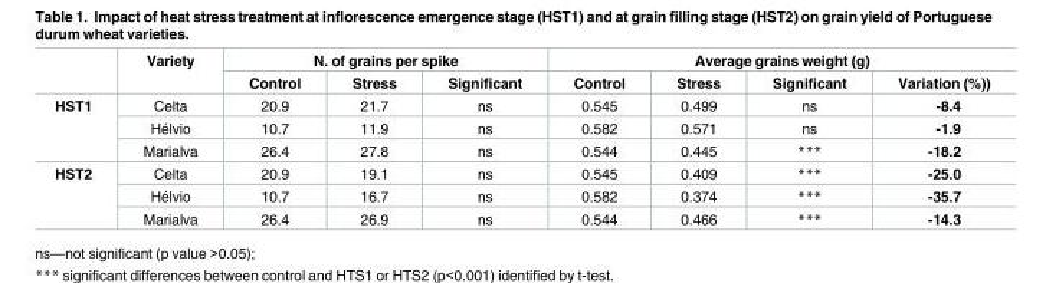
<table><thead><tr><td rowspan="2"></td><td rowspan="2">Variety</td><td colspan="3">N. of grains per spike</td><td colspan="4">Average grains weight (g)</td></tr><tr><td>Control</td><td>Stress</td><td>Significant</td><td>Control</td><td>Stress</td><td>Significant</td><td>Variation (%))</td></tr></thead><tbody><tr><td rowspan="3">HST1</td><td>Celta</td><td>20.9</td><td>21.7</td><td>ns</td><td>0.545</td><td>0.499</td><td>ns</td><td>-8.4</td></tr><tr><td>He´lvio</td><td>10.7</td><td>11.9</td><td>ns</td><td>0.582</td><td>0.571</td><td>ns</td><td>-1.9</td></tr><tr><td>Marialva</td><td>26.4</td><td>27.8</td><td>ns</td><td>0.544</td><td>0.445</td><td>***</td><td>-18.2</td></tr><tr><td rowspan="3">HST2</td><td>Celta</td><td>20.9</td><td>19.1</td><td>ns</td><td>0.545</td><td>0.409</td><td>***</td><td>-25.0</td></tr><tr><td>He´lvio</td><td>10.7</td><td>16.7</td><td>ns</td><td>0.582</td><td>0.374</td><td>***</td><td>-35.7</td></tr><tr><td>Marialva</td><td>26.4</td><td>26.9</td><td>ns</td><td>0.544</td><td>0.466</td><td>***</td><td>-14.3</td></tr></tbody></table>